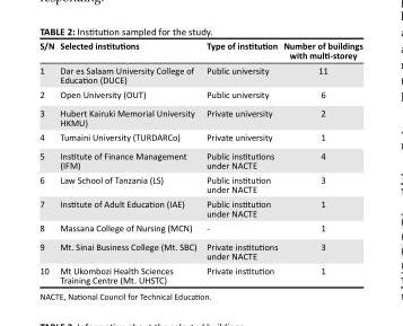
<table><thead><tr><td>S/N</td><td>Selected institutions</td><td>Type of institution</td><td>Number of buildings with multi-storey</td></tr></thead><tbody><tr><td>1</td><td>Dar es Salaam University College of Education (DUCE)</td><td>Public university</td><td>11</td></tr><tr><td>2</td><td>Open University (OUT)</td><td>Public university</td><td>6</td></tr><tr><td>3</td><td>Hubert Kairuki Memorial University HKMU)</td><td>Private university</td><td>2</td></tr><tr><td>4</td><td>Tumaini University (TURDARCo)</td><td>Private university</td><td>1</td></tr><tr><td>5</td><td>Institute of Finance Management (IFM)</td><td>Public institutions under NACTE</td><td>4</td></tr><tr><td>6</td><td>Law School of Tanzania (LS)</td><td>Public institution under NACTE</td><td>3</td></tr><tr><td>7</td><td>Institute of Adult Education (IAE)</td><td>Public institution under NACTE</td><td>1</td></tr><tr><td>8</td><td>Massana College of Nursing (MCN)</td><td>-</td><td>1</td></tr><tr><td>9</td><td>Mt. Sinai Business College (Mt. SBC)</td><td>Private institutions under NACTE</td><td>3</td></tr><tr><td>10</td><td>Mt Ukombozi Health Sciences Training Centre (Mt. UHSTC)</td><td>Private institution</td><td>1</td></tr></tbody></table>